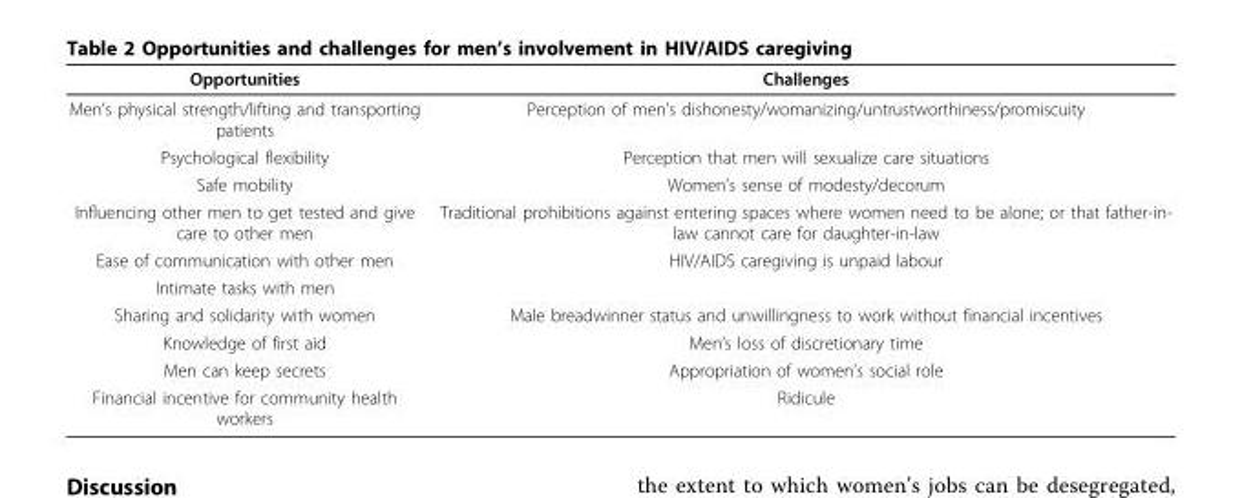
<table><thead><tr><td>Opportunities</td><td>Challenges</td></tr></thead><tbody><tr><td>Men’s physical strength/lifting and transporting patients</td><td>Perception of men’s dishonesty/womanizing/untrustworthiness/promiscuity</td></tr><tr><td>Psychological flexibility</td><td>Perception that men will sexualize care situations</td></tr><tr><td>Safe mobility</td><td>Women’s sense of modesty/decorum</td></tr><tr><td>Influencing other men to get tested and give care to other men</td><td>Traditional prohibitions against entering spaces where women need to be alone; or that father-in- law cannot care for daughter-in-law</td></tr><tr><td>Ease of communication with other men</td><td>HIV/AIDS caregiving is unpaid labour</td></tr><tr><td colspan="2">Intimate tasks with men</td></tr><tr><td>Sharing and solidarity with women</td><td>Male breadwinner status and unwillingness to work without financial incentives</td></tr><tr><td>Knowledge of first aid</td><td>Men’s loss of discretionary time</td></tr><tr><td>Men can keep secrets</td><td>Appropriation of women’s social role</td></tr><tr><td>Financial incentive for community health workers</td><td>Ridicule</td></tr></tbody></table>